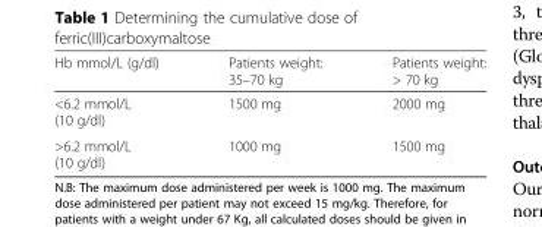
<table><thead><tr><td>Hb mmol/L (g/dl)</td><td>Patients weight: 35–70 kg</td><td>Patients weight: &gt; 70 kg</td></tr></thead><tbody><tr><td>&lt;6.2 mmol/L (10 g/dl)</td><td>1500 mg</td><td>2000 mg</td></tr><tr><td>&gt;6.2 mmol/L (10 g/dl)</td><td>1000 mg</td><td>1500 mg</td></tr></tbody></table>